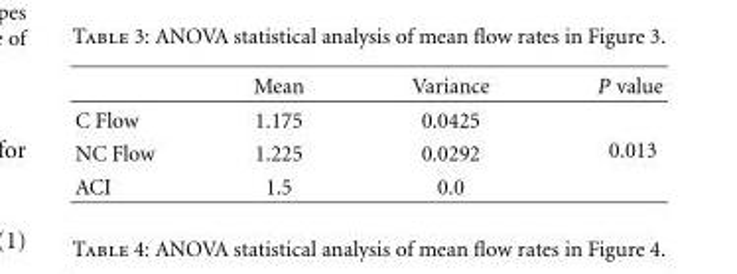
<table><thead><tr><td></td><td>Mean</td><td>Variance</td><td>P value</td></tr></thead><tbody><tr><td>C Flow</td><td>1.175</td><td>0.0425</td><td rowspan="3">0.013</td></tr><tr><td>NC Flow</td><td>1.225</td><td>0.0292</td></tr><tr><td>ACI</td><td>1.5</td><td>0.0</td></tr></tbody></table>